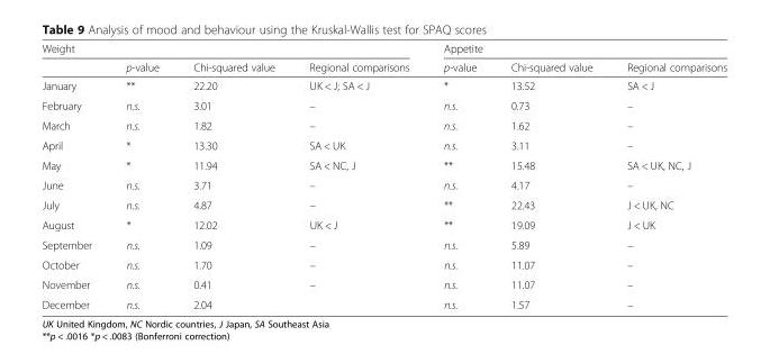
<table><thead><tr><td colspan="4">Weight</td><td colspan="3">Appetite</td></tr><tr><td></td><td>p-value</td><td>Chi-squared value</td><td>Regional comparisons</td><td>p-value</td><td>Chi-squared value</td><td>Regional comparisons</td></tr></thead><tbody><tr><td>January</td><td>**</td><td>22.20</td><td>UK &lt; J; SA &lt; J</td><td>*</td><td>13.52</td><td>SA &lt; J</td></tr><tr><td>February</td><td>n.s.</td><td>3.01</td><td>–</td><td>n.s.</td><td>0.73</td><td>–</td></tr><tr><td>March</td><td>n.s.</td><td>1.82</td><td>–</td><td>n.s.</td><td>1.62</td><td>–</td></tr><tr><td>April</td><td>*</td><td>13.30</td><td>SA &lt; UK</td><td>n.s.</td><td>3.11</td><td>–</td></tr><tr><td>May</td><td>*</td><td>11.94</td><td>SA &lt; NC, J</td><td>**</td><td>15.48</td><td>SA &lt; UK, NC, J</td></tr><tr><td>June</td><td>n.s.</td><td>3.71</td><td>–</td><td>n.s.</td><td>4.17</td><td>–</td></tr><tr><td>July</td><td>n.s.</td><td>4.87</td><td>–</td><td>**</td><td>22.43</td><td>J &lt; UK, NC</td></tr><tr><td>August</td><td>*</td><td>12.02</td><td>UK &lt; J</td><td>**</td><td>19.09</td><td>J &lt; UK</td></tr><tr><td>September</td><td>n.s.</td><td>1.09</td><td>–</td><td>n.s.</td><td>5.89</td><td>–</td></tr><tr><td>October</td><td>n.s.</td><td>1.70</td><td>–</td><td>n.s.</td><td>11.07</td><td>–</td></tr><tr><td>November</td><td>n.s.</td><td>0.41</td><td>–</td><td>n.s.</td><td>11.07</td><td>–</td></tr><tr><td>December</td><td>n.s.</td><td>2.04</td><td></td><td>n.s.</td><td>1.57</td><td>–</td></tr></tbody></table>